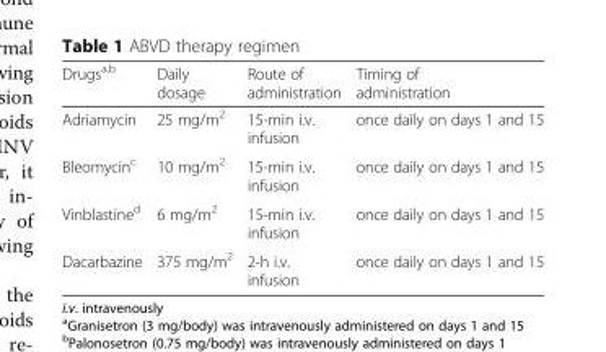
<table><thead><tr><td>Drugs<sup>a,b</sup></td><td>Daily dosage</td><td>Route of administration</td><td>Timing of administration</td></tr></thead><tbody><tr><td>Adriamycin</td><td>25 mg/m<sup>2</sup></td><td>15-min i.v. infusion</td><td>once daily on days 1 and 15</td></tr><tr><td>Bleomycin<sup>c</sup></td><td>10 mg/m<sup>2</sup></td><td>15-min i.v. infusion</td><td>once daily on days 1 and 15</td></tr><tr><td>Vinblastine<sup>d</sup></td><td>6 mg/m<sup>2</sup></td><td>15-min i.v. infusion</td><td>once daily on days 1 and 15</td></tr><tr><td>Dacarbazine</td><td>375 mg/m<sup>2</sup></td><td>2-h i.v. infusion</td><td>once daily on days 1 and 15</td></tr></tbody></table>